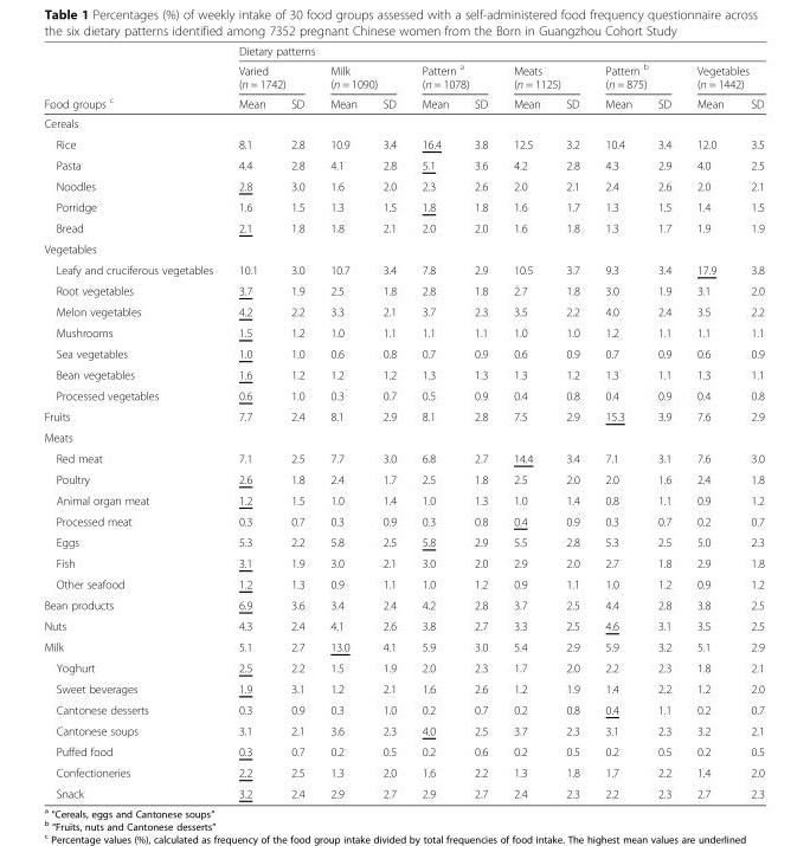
<table><thead><tr><td rowspan="4">Food groups <sup>c</sup></td><td colspan="12">Dietary patterns</td></tr><tr><td rowspan="2" colspan="2">Varied (n = 1742)</td><td rowspan="2" colspan="2">Milk (n = 1090)</td><td rowspan="2" colspan="2">Pattern <sup>a</sup> (n = 1078)</td><td rowspan="2" colspan="2">Meats (n = 1125)</td><td rowspan="2" colspan="2">Pattern <sup>b</sup> (n = 875)</td><td rowspan="2" colspan="2">Vegetables (n = 1442)</td></tr><tr></tr><tr><td>Mean</td><td>SD</td><td>Mean</td><td>SD</td><td>Mean</td><td>SD</td><td>Mean</td><td>SD</td><td>Mean</td><td>SD</td><td>Mean</td><td>SD</td></tr></thead><tbody><tr><td colspan="13">Cereals</td></tr><tr><td>Rice</td><td>8.1</td><td>2.8</td><td>10.9</td><td>3.4</td><td>16.4</td><td>3.8</td><td>12.5</td><td>3.2</td><td>10.4</td><td>3.4</td><td>12.0</td><td>3.5</td></tr><tr><td>Pasta</td><td>4.4</td><td>2.8</td><td>4.1</td><td>2.8</td><td>5.1</td><td>3.6</td><td>4.2</td><td>2.8</td><td>4.3</td><td>2.9</td><td>4.0</td><td>2.5</td></tr><tr><td>Noodles</td><td>2.8</td><td>3.0</td><td>1.6</td><td>2.0</td><td>2.3</td><td>2.6</td><td>2.0</td><td>2.1</td><td>2.4</td><td>2.6</td><td>2.0</td><td>2.1</td></tr><tr><td>Porridge</td><td>1.6</td><td>1.5</td><td>1.3</td><td>1.5</td><td>1.8</td><td>1.8</td><td>1.6</td><td>1.7</td><td>1.3</td><td>1.5</td><td>1.4</td><td>1.5</td></tr><tr><td>Bread</td><td>2.1</td><td>1.8</td><td>1.8</td><td>2.1</td><td>2.0</td><td>2.0</td><td>1.6</td><td>1.8</td><td>1.3</td><td>1.7</td><td>1.9</td><td>1.9</td></tr><tr><td colspan="13">Vegetables</td></tr><tr><td>Leafy and cruciferous vegetables</td><td>10.1</td><td>3.0</td><td>10.7</td><td>3.4</td><td>7.8</td><td>2.9</td><td>10.5</td><td>3.7</td><td>9.3</td><td>3.4</td><td>17.9</td><td>3.8</td></tr><tr><td>Root vegetables</td><td>3.7</td><td>1.9</td><td>2.5</td><td>1.8</td><td>2.8</td><td>1.8</td><td>2.7</td><td>1.8</td><td>3.0</td><td>1.9</td><td>3.1</td><td>2.0</td></tr><tr><td>Melon vegetables</td><td>4.2</td><td>2.2</td><td>3.3</td><td>2.1</td><td>3.7</td><td>2.3</td><td>3.5</td><td>2.2</td><td>4.0</td><td>2.4</td><td>3.5</td><td>2.2</td></tr><tr><td>Mushrooms</td><td>1.5</td><td>1.2</td><td>1.0</td><td>1.1</td><td>1.1</td><td>1.1</td><td>1.0</td><td>1.0</td><td>1.2</td><td>1.1</td><td>1.1</td><td>1.1</td></tr><tr><td>Sea vegetables</td><td>1.0</td><td>1.0</td><td>0.6</td><td>0.8</td><td>0.7</td><td>0.9</td><td>0.6</td><td>0.9</td><td>0.7</td><td>0.9</td><td>0.6</td><td>0.9</td></tr><tr><td>Bean vegetables</td><td>1.6</td><td>1.2</td><td>1.2</td><td>1.2</td><td>1.3</td><td>1.3</td><td>1.3</td><td>1.2</td><td>1.3</td><td>1.1</td><td>1.3</td><td>1.1</td></tr><tr><td>Processed vegetables</td><td>0.6</td><td>1.0</td><td>0.3</td><td>0.7</td><td>0.5</td><td>0.9</td><td>0.4</td><td>0.8</td><td>0.4</td><td>0.9</td><td>0.4</td><td>0.8</td></tr><tr><td>Fruits</td><td>7.7</td><td>2.4</td><td>8.1</td><td>2.9</td><td>8.1</td><td>2.8</td><td>7.5</td><td>2.9</td><td>15.3</td><td>3.9</td><td>7.6</td><td>2.9</td></tr><tr><td colspan="13">Meats</td></tr><tr><td>Red meat</td><td>7.1</td><td>2.5</td><td>7.7</td><td>3.0</td><td>6.8</td><td>2.7</td><td>14.4</td><td>3.4</td><td>7.1</td><td>3.1</td><td>7.6</td><td>3.0</td></tr><tr><td>Poultry</td><td>2.6</td><td>1.8</td><td>2.4</td><td>1.7</td><td>2.5</td><td>1.8</td><td>2.5</td><td>2.0</td><td>2.0</td><td>1.6</td><td>2.4</td><td>1.8</td></tr><tr><td>Animal organ meat</td><td>1.2</td><td>1.5</td><td>1.0</td><td>1.4</td><td>1.0</td><td>1.3</td><td>1.0</td><td>1.4</td><td>0.8</td><td>1.1</td><td>0.9</td><td>1.2</td></tr><tr><td>Processed meat</td><td>0.3</td><td>0.7</td><td>0.3</td><td>0.9</td><td>0.3</td><td>0.8</td><td>0.4</td><td>0.9</td><td>0.3</td><td>0.7</td><td>0.2</td><td>0.7</td></tr><tr><td>Eggs</td><td>5.3</td><td>2.2</td><td>5.8</td><td>2.5</td><td>5.8</td><td>2.9</td><td>5.5</td><td>2.8</td><td>5.3</td><td>2.5</td><td>5.0</td><td>2.3</td></tr><tr><td>Fish</td><td>3.1</td><td>1.9</td><td>3.0</td><td>2.1</td><td>3.0</td><td>2.0</td><td>2.9</td><td>2.0</td><td>2.7</td><td>1.8</td><td>2.9</td><td>1.8</td></tr><tr><td>Other seafood</td><td>1.2</td><td>1.3</td><td>0.9</td><td>1.1</td><td>1.0</td><td>1.2</td><td>0.9</td><td>1.1</td><td>1.0</td><td>1.2</td><td>0.9</td><td>1.2</td></tr><tr><td>Bean products</td><td>6.9</td><td>3.6</td><td>3.4</td><td>2.4</td><td>4.2</td><td>2.8</td><td>3.7</td><td>2.5</td><td>4.4</td><td>2.8</td><td>3.8</td><td>2.5</td></tr><tr><td>Nuts</td><td>4.3</td><td>2.4</td><td>4.1</td><td>2.6</td><td>3.8</td><td>2.7</td><td>3.3</td><td>2.5</td><td>4.6</td><td>3.1</td><td>3.5</td><td>2.5</td></tr><tr><td>Milk</td><td>5.1</td><td>2.7</td><td>13.0</td><td>4.1</td><td>5.9</td><td>3.0</td><td>5.4</td><td>2.9</td><td>5.9</td><td>3.2</td><td>5.1</td><td>2.9</td></tr><tr><td>Yoghurt</td><td>2.5</td><td>2.2</td><td>1.5</td><td>1.9</td><td>2.0</td><td>2.3</td><td>1.7</td><td>2.0</td><td>2.2</td><td>2.3</td><td>1.8</td><td>2.1</td></tr><tr><td>Sweet beverages</td><td>1.9</td><td>3.1</td><td>1.2</td><td>2.1</td><td>1.6</td><td>2.6</td><td>1.2</td><td>1.9</td><td>1.4</td><td>2.2</td><td>1.2</td><td>2.0</td></tr><tr><td>Cantonese desserts</td><td>0.3</td><td>0.9</td><td>0.3</td><td>1.0</td><td>0.2</td><td>0.7</td><td>0.2</td><td>0.8</td><td>0.4</td><td>1.1</td><td>0.2</td><td>0.7</td></tr><tr><td>Cantonese soups</td><td>3.1</td><td>2.1</td><td>3.6</td><td>2.3</td><td>4.0</td><td>2.5</td><td>3.7</td><td>2.3</td><td>3.1</td><td>2.3</td><td>3.2</td><td>2.1</td></tr><tr><td>Puffed food</td><td>0.3</td><td>0.7</td><td>0.2</td><td>0.5</td><td>0.2</td><td>0.6</td><td>0.2</td><td>0.5</td><td>0.2</td><td>0.5</td><td>0.2</td><td>0.5</td></tr><tr><td>Confectioneries</td><td>2.2</td><td>2.5</td><td>1.3</td><td>2.0</td><td>1.6</td><td>2.2</td><td>1.3</td><td>1.8</td><td>1.7</td><td>2.2</td><td>1.4</td><td>2.0</td></tr><tr><td>Snack</td><td>3.2</td><td>2.4</td><td>2.9</td><td>2.7</td><td>2.9</td><td>2.7</td><td>2.4</td><td>2.3</td><td>2.2</td><td>2.3</td><td>2.7</td><td>2.3</td></tr></tbody></table>